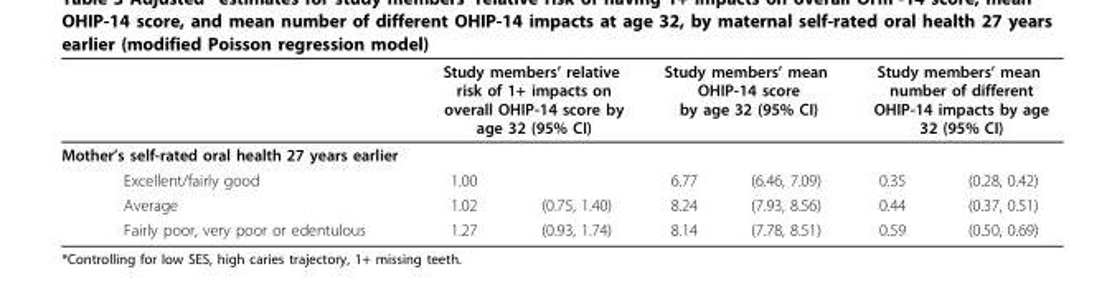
<table><thead><tr><td rowspan="2">Mother’s self-rated oral health 27 years earlier</td><td colspan="2">Study members’ relative risk of 1+ impacts on overall OHIP-14 score by age 32 (95% CI)</td><td colspan="2">Study members’ mean OHIP-14 score by age 32 (95% CI)</td><td colspan="2">Study members’ mean number of different OHIP-14 impacts by age 32 (95% CI)</td></tr><tr><td></td><td></td><td></td><td></td><td></td><td></td></tr></thead><tbody><tr><td>Excellent/fairly good</td><td>1.00</td><td></td><td>6.77</td><td>(6.46, 7.09)</td><td>0.35</td><td>(0.28, 0.42)</td></tr><tr><td>Average</td><td>1.02</td><td>(0.75, 1.40)</td><td>8.24</td><td>(7.93, 8.56)</td><td>0.44</td><td>(0.37, 0.51)</td></tr><tr><td>Fairly poor, very poor or edentulous</td><td>1.27</td><td>(0.93, 1.74)</td><td>8.14</td><td>(7.78, 8.51)</td><td>0.59</td><td>(0.50, 0.69)</td></tr></tbody></table>